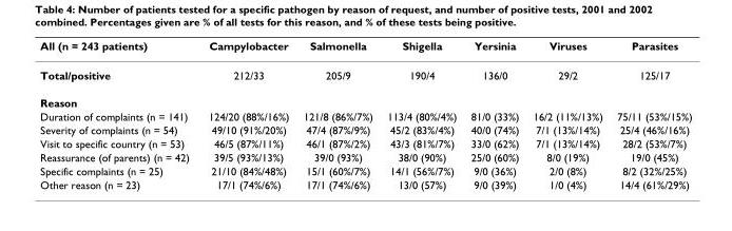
<table><thead><tr><td>All (n = 243 patients)</td><td>Campylobacter</td><td>Salmonella</td><td>Shigella</td><td>Yersinia</td><td>Viruses</td><td>Parasites</td></tr></thead><tbody><tr><td>Total/positive</td><td>212/33</td><td>205/9</td><td>190/4</td><td>136/0</td><td>29/2</td><td>125/17</td></tr><tr><td colspan="7">Reason</td></tr><tr><td>Duration of complaints (n = 141)</td><td>124/20 (88%/16%)</td><td>121/8 (86%/7%)</td><td>113/4 (80%/4%)</td><td>81/0 (33%)</td><td>16/2 (11%/13%)</td><td>75/11 (53%/15%)</td></tr><tr><td>Severity of complaints (n = 54)</td><td>49/10 (91%/20%)</td><td>47/4 (87%/9%)</td><td>45/2 (83%/4%)</td><td>40/0 (74%)</td><td>7/1 (13%/14%)</td><td>25/4 (46%/16%)</td></tr><tr><td>Visit to specific country (n = 53)</td><td>46/5 (87%/11%)</td><td>46/1 (87%/2%)</td><td>43/3 (81%/7%)</td><td>33/0 (62%)</td><td>7/1 (13%/14%)</td><td>28/2 (53%/7%)</td></tr><tr><td>Reassurance (of parents) (n = 42)</td><td>39/5 (93%/13%)</td><td>39/0 (93%)</td><td>38/0 (90%)</td><td>25/0 (60%)</td><td>8/0 (19%)</td><td>19/0 (45%)</td></tr><tr><td>Specific complaints (n = 25)</td><td>21/10 (84%/48%)</td><td>15/1 (60%/7%)</td><td>14/1 (56%/7%)</td><td>9/0 (36%)</td><td>2/0 (8%)</td><td>8/2 (32%/25%)</td></tr><tr><td>Other reason (n = 23)</td><td>17/1 (74%/6%)</td><td>17/1 (74%/6%)</td><td>13/0 (57%)</td><td>9/0 (39%)</td><td>1/0 (4%)</td><td>14/4 (61%/29%)</td></tr></tbody></table>